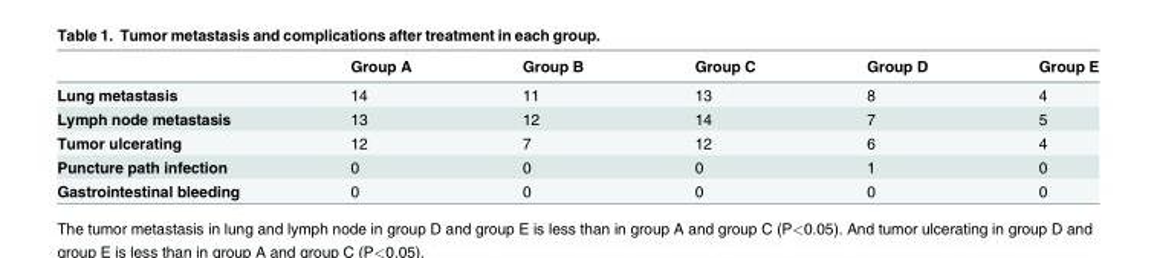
<table><thead><tr><td></td><td>Group A</td><td>Group B</td><td>Group C</td><td>Group D</td><td>Group E</td></tr></thead><tbody><tr><td>Lung metastasis</td><td>14</td><td>11</td><td>13</td><td>8</td><td>4</td></tr><tr><td>Lymph node metastasis</td><td>13</td><td>12</td><td>14</td><td>7</td><td>5</td></tr><tr><td>Tumor ulcerating</td><td>12</td><td>7</td><td>12</td><td>6</td><td>4</td></tr><tr><td>Puncture path infection</td><td>0</td><td>0</td><td>0</td><td>1</td><td>0</td></tr><tr><td>Gastrointestinal bleeding</td><td>0</td><td>0</td><td>0</td><td>0</td><td>0</td></tr></tbody></table>